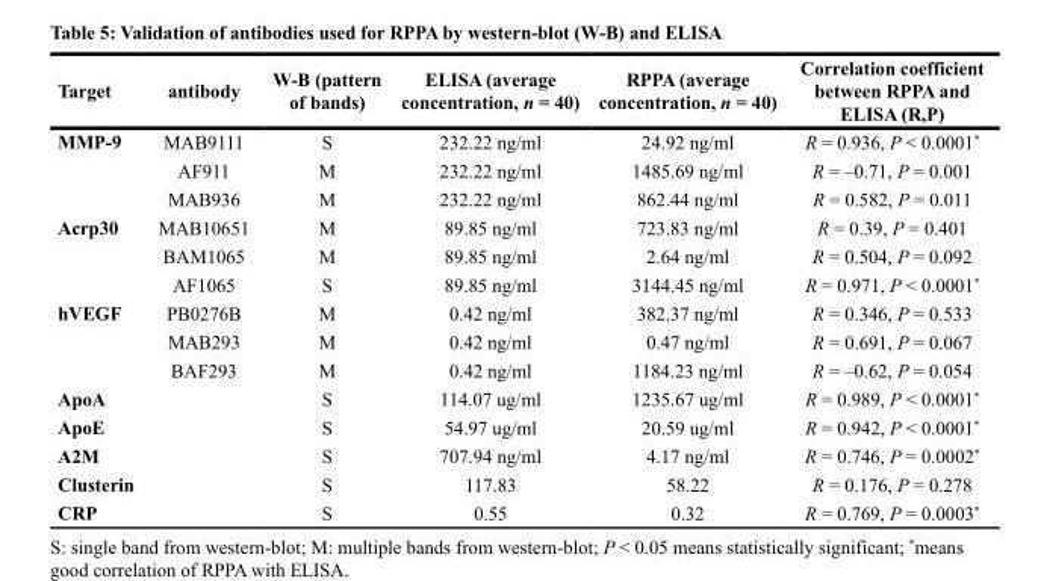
<table><thead><tr><td>Target</td><td>antibody</td><td>W-B (pattern of bands)</td><td>ELISA (average concentration, n = 40)</td><td>RPPA (average concentration, n = 40)</td><td>Correlation coefficient between RPPA and ELISA (R,P)</td></tr></thead><tbody><tr><td rowspan="3">MMP-9</td><td>MAB9111</td><td>S</td><td>232.22 ng/ml</td><td>24.92 ng/ml</td><td>R = 0.936, P &lt; 0.0001*</td></tr><tr><td>AF911</td><td>M</td><td>232.22 ng/ml</td><td>1485.69 ng/ml</td><td>R = –0.71, P = 0.001</td></tr><tr><td>MAB936</td><td>M</td><td>232.22 ng/ml</td><td>862.44 ng/ml</td><td>R = 0.582, P = 0.011</td></tr><tr><td rowspan="3">Acrp30</td><td>MAB10651</td><td>M</td><td>89.85 ng/ml</td><td>723.83 ng/ml</td><td>R = 0.39, P = 0.401</td></tr><tr><td>BAM1065</td><td>M</td><td>89.85 ng/ml</td><td>2.64 ng/ml</td><td>R = 0.504, P = 0.092</td></tr><tr><td>AF1065</td><td>S</td><td>89.85 ng/ml</td><td>3144.45 ng/ml</td><td>R = 0.971, P &lt; 0.0001*</td></tr><tr><td rowspan="3">hVEGF</td><td>PB0276B</td><td>M</td><td>0.42 ng/ml</td><td>382.37 ng/ml</td><td>R = 0.346, P = 0.533</td></tr><tr><td>MAB293</td><td>M</td><td>0.42 ng/ml</td><td>0.47 ng/ml</td><td>R = 0.691, P = 0.067</td></tr><tr><td>BAF293</td><td>M</td><td>0.42 ng/ml</td><td>1184.23 ng/ml</td><td>R = –0.62, P = 0.054</td></tr><tr><td>ApoA</td><td></td><td>S</td><td>114.07 ug/ml</td><td>1235.67 ug/ml</td><td>R = 0.989, P &lt; 0.0001*</td></tr><tr><td>ApoE</td><td></td><td>S</td><td>54.97 ug/ml</td><td>20.59 ug/ml</td><td>R = 0.942, P &lt; 0.0001*</td></tr><tr><td>A2M</td><td></td><td>S</td><td>707.94 ng/ml</td><td>4.17 ng/ml</td><td>R = 0.746, P = 0.0002*</td></tr><tr><td>Clusterin</td><td></td><td>S</td><td>117.83</td><td>58.22</td><td>R = 0.176, P = 0.278</td></tr><tr><td>CRP</td><td></td><td>S</td><td>0.55</td><td>0.32</td><td>R = 0.769, P = 0.0003*</td></tr></tbody></table>